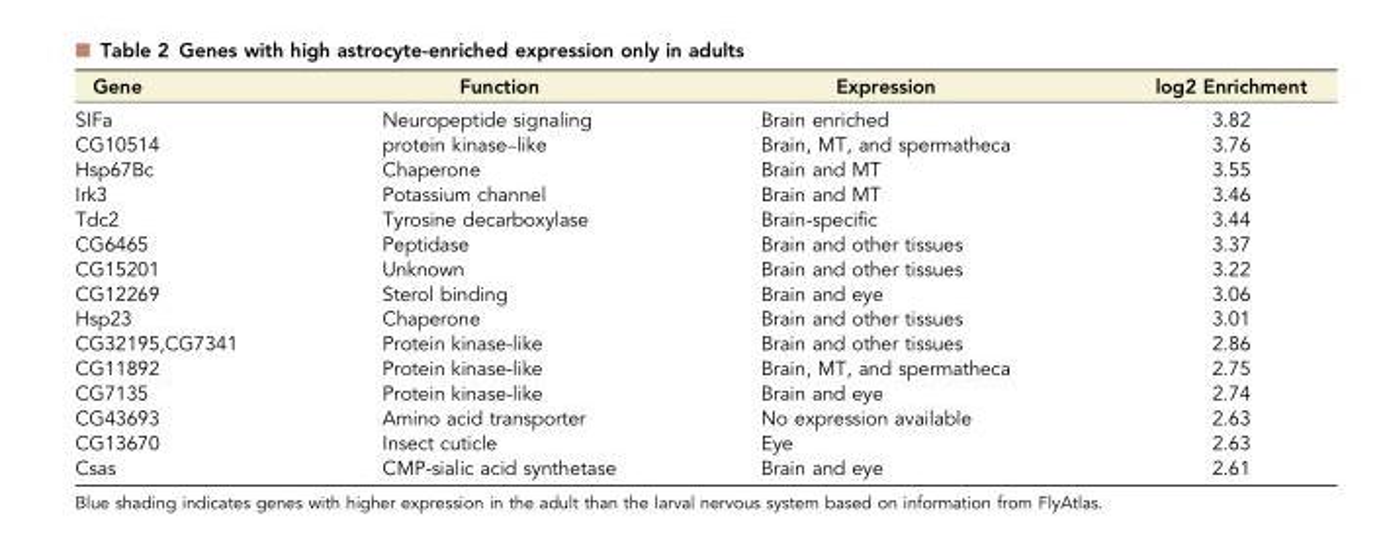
<table><thead><tr><td>Gene</td><td>Function</td><td>Expression</td><td>log2 Enrichment</td></tr></thead><tbody><tr><td>SIFa</td><td>Neuropeptide signaling</td><td>Brain enriched</td><td>3.82</td></tr><tr><td>CG10514</td><td>protein kinase–like</td><td>Brain, MT, and spermatheca</td><td>3.76</td></tr><tr><td>Hsp67Bc</td><td>Chaperone</td><td>Brain and MT</td><td>3.55</td></tr><tr><td>Irk3</td><td>Potassium channel</td><td>Brain and MT</td><td>3.46</td></tr><tr><td>Tdc2</td><td>Tyrosine decarboxylase</td><td>Brain-specific</td><td>3.44</td></tr><tr><td>CG6465</td><td>Peptidase</td><td>Brain and other tissues</td><td>3.37</td></tr><tr><td>CG15201</td><td>Unknown</td><td>Brain and other tissues</td><td>3.22</td></tr><tr><td>CG12269</td><td>Sterol binding</td><td>Brain and eye</td><td>3.06</td></tr><tr><td>Hsp23</td><td>Chaperone</td><td>Brain and other tissues</td><td>3.01</td></tr><tr><td>CG32195,CG7341</td><td>Protein kinase-like</td><td>Brain and other tissues</td><td>2.86</td></tr><tr><td>CG11892</td><td>Protein kinase-like</td><td>Brain, MT, and spermatheca</td><td>2.75</td></tr><tr><td>CG7135</td><td>Protein kinase-like</td><td>Brain and eye</td><td>2.74</td></tr><tr><td>CG43693</td><td>Amino acid transporter</td><td>No expression available</td><td>2.63</td></tr><tr><td>CG13670</td><td>Insect cuticle</td><td>Eye</td><td>2.63</td></tr><tr><td>Csas</td><td>CMP-sialic acid synthetase</td><td>Brain and eye</td><td>2.61</td></tr></tbody></table>